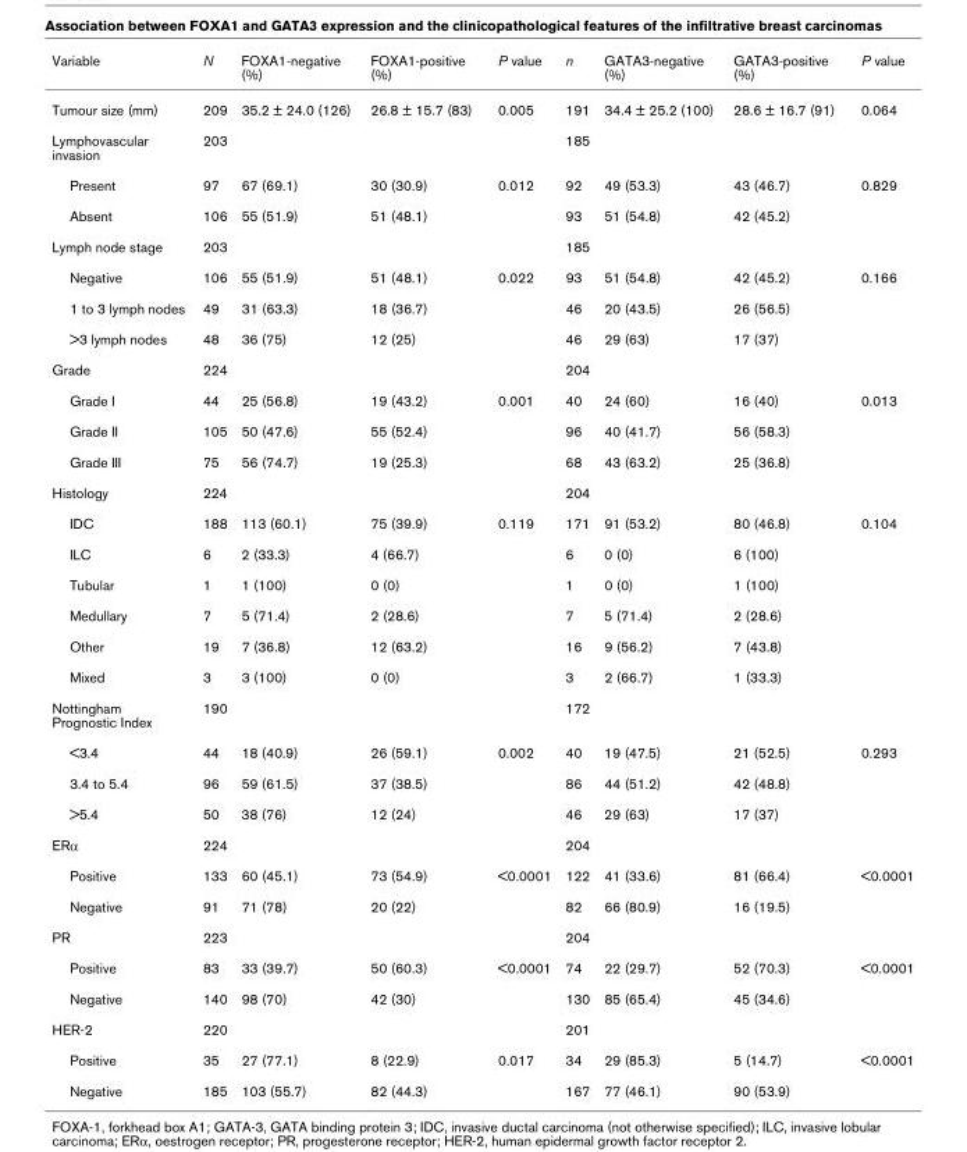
<table><thead><tr><td>Variable</td><td>N</td><td>FOXA1-negative (%)</td><td>FOXA1-positive (%)</td><td>P value</td><td>n</td><td>GATA3-negative (%)</td><td>GATA3-positive (%)</td><td>P value</td></tr></thead><tbody><tr><td>Tumour size (mm)</td><td>209</td><td>35.2 ± 24.0 (126)</td><td>26.8 ± 15.7 (83)</td><td>0.005</td><td>191</td><td>34.4 ± 25.2 (100)</td><td>28.6 ± 16.7 (91)</td><td>0.064</td></tr><tr><td>Lymphovascular invasion</td><td>203</td><td></td><td></td><td></td><td>185</td><td></td><td></td><td></td></tr><tr><td>Present</td><td>97</td><td>67 (69.1)</td><td>30 (30.9)</td><td>0.012</td><td>92</td><td>49 (53.3)</td><td>43 (46.7)</td><td>0.829</td></tr><tr><td>Absent</td><td>106</td><td>55 (51.9)</td><td>51 (48.1)</td><td></td><td>93</td><td>51 (54.8)</td><td>42 (45.2)</td><td></td></tr><tr><td>Lymph node stage</td><td>203</td><td></td><td></td><td></td><td>185</td><td></td><td></td><td></td></tr><tr><td>Negative</td><td>106</td><td>55 (51.9)</td><td>51 (48.1)</td><td>0.022</td><td>93</td><td>51 (54.8)</td><td>42 (45.2)</td><td>0.166</td></tr><tr><td>1 to 3 lymph nodes</td><td>49</td><td>31 (63.3)</td><td>18 (36.7)</td><td></td><td>46</td><td>20 (43.5)</td><td>26 (56.5)</td><td></td></tr><tr><td>&gt;3 lymph nodes</td><td>48</td><td>36 (75)</td><td>12 (25)</td><td></td><td>46</td><td>29 (63)</td><td>17 (37)</td><td></td></tr><tr><td>Grade</td><td>224</td><td></td><td></td><td></td><td>204</td><td></td><td></td><td></td></tr><tr><td>Grade I</td><td>44</td><td>25 (56.8)</td><td>19 (43.2)</td><td>0.001</td><td>40</td><td>24 (60)</td><td>16 (40)</td><td>0.013</td></tr><tr><td>Grade II</td><td>105</td><td>50 (47.6)</td><td>55 (52.4)</td><td></td><td>96</td><td>40 (41.7)</td><td>56 (58.3)</td><td></td></tr><tr><td>Grade III</td><td>75</td><td>56 (74.7)</td><td>19 (25.3)</td><td></td><td>68</td><td>43 (63.2)</td><td>25 (36.8)</td><td></td></tr><tr><td>Histology</td><td>224</td><td></td><td></td><td></td><td>204</td><td></td><td></td><td></td></tr><tr><td>IDC</td><td>188</td><td>113 (60.1)</td><td>75 (39.9)</td><td>0.119</td><td>171</td><td>91 (53.2)</td><td>80 (46.8)</td><td>0.104</td></tr><tr><td>ILC</td><td>6</td><td>2 (33.3)</td><td>4 (66.7)</td><td></td><td>6</td><td>0 (0)</td><td>6 (100)</td><td></td></tr><tr><td>Tubular</td><td>1</td><td>1 (100)</td><td>0 (0)</td><td></td><td>1</td><td>0 (0)</td><td>1 (100)</td><td></td></tr><tr><td>Medullary</td><td>7</td><td>5 (71.4)</td><td>2 (28.6)</td><td></td><td>7</td><td>5 (71.4)</td><td>2 (28.6)</td><td></td></tr><tr><td>Other</td><td>19</td><td>7 (36.8)</td><td>12 (63.2)</td><td></td><td>16</td><td>9 (56.2)</td><td>7 (43.8)</td><td></td></tr><tr><td>Mixed</td><td>3</td><td>3 (100)</td><td>0 (0)</td><td></td><td>3</td><td>2 (66.7)</td><td>1 (33.3)</td><td></td></tr><tr><td>Nottingham Prognostic Index</td><td>190</td><td></td><td></td><td></td><td>172</td><td></td><td></td><td></td></tr><tr><td>&lt;3.4</td><td>44</td><td>18 (40.9)</td><td>26 (59.1)</td><td>0.002</td><td>40</td><td>19 (47.5)</td><td>21 (52.5)</td><td>0.293</td></tr><tr><td>3.4 to 5.4</td><td>96</td><td>59 (61.5)</td><td>37 (38.5)</td><td></td><td>86</td><td>44 (51.2)</td><td>42 (48.8)</td><td></td></tr><tr><td>&gt;5.4</td><td>50</td><td>38 (76)</td><td>12 (24)</td><td></td><td>46</td><td>29 (63)</td><td>17 (37)</td><td></td></tr><tr><td>ERα</td><td>224</td><td></td><td></td><td></td><td>204</td><td></td><td></td><td></td></tr><tr><td>Positive</td><td>133</td><td>60 (45.1)</td><td>73 (54.9)</td><td>&lt;0.0001</td><td>122</td><td>41 (33.6)</td><td>81 (66.4)</td><td>&lt;0.0001</td></tr><tr><td>Negative</td><td>91</td><td>71 (78)</td><td>20 (22)</td><td></td><td>82</td><td>66 (80.9)</td><td>16 (19.5)</td><td></td></tr><tr><td>PR</td><td>223</td><td></td><td></td><td></td><td>204</td><td></td><td></td><td></td></tr><tr><td>Positive</td><td>83</td><td>33 (39.7)</td><td>50 (60.3)</td><td>&lt;0.0001</td><td>74</td><td>22 (29.7)</td><td>52 (70.3)</td><td>&lt;0.0001</td></tr><tr><td>Negative</td><td>140</td><td>98 (70)</td><td>42 (30)</td><td></td><td>130</td><td>85 (65.4)</td><td>45 (34.6)</td><td></td></tr><tr><td>HER-2</td><td>220</td><td></td><td></td><td></td><td>201</td><td></td><td></td><td></td></tr><tr><td>Positive</td><td>35</td><td>27 (77.1)</td><td>8 (22.9)</td><td>0.017</td><td>34</td><td>29 (85.3)</td><td>5 (14.7)</td><td>&lt;0.0001</td></tr><tr><td>Negative</td><td>185</td><td>103 (55.7)</td><td>82 (44.3)</td><td></td><td>167</td><td>77 (46.1)</td><td>90 (53.9)</td><td></td></tr></tbody></table>